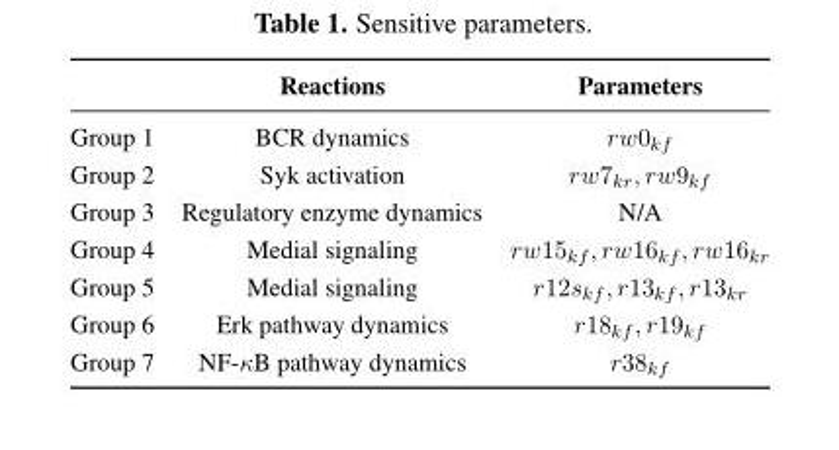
<table><thead><tr><td></td><td>Reactions</td><td>Parameters</td></tr></thead><tbody><tr><td>Group 1</td><td>BCR dynamics</td><td>rw0<sub>kf</sub></td></tr><tr><td>Group 2</td><td>Syk activation</td><td>rw7<sub>kr</sub>, rw9<sub>kf</sub></td></tr><tr><td>Group 3</td><td>Regulatory enzyme dynamics</td><td>N/A</td></tr><tr><td>Group 4</td><td>Medial signaling</td><td>rw15<sub>kf</sub>, rw16<sub>kf</sub>, rw16<sub>kr</sub></td></tr><tr><td>Group 5</td><td>Medial signaling</td><td>r12s<sub>kf</sub>, r13<sub>kf</sub>, r13<sub>kr</sub></td></tr><tr><td>Group 6</td><td>Erk pathway dynamics</td><td>r18<sub>kf</sub>, r19<sub>kf</sub></td></tr><tr><td>Group 7</td><td>NF-κB pathway dynamics</td><td>r38<sub>kf</sub></td></tr></tbody></table>